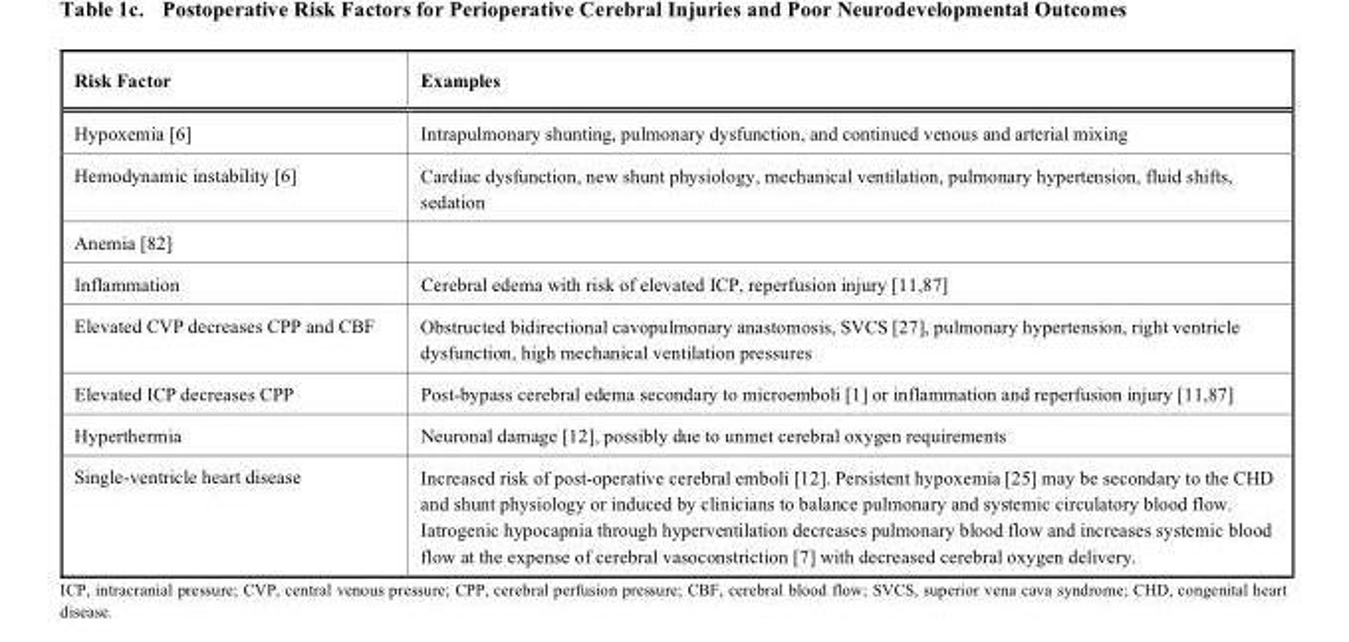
<table><thead><tr><td>Risk Factor</td><td>Examples</td></tr></thead><tbody><tr><td>Hypoxemia [6]</td><td>Intrapulmonary shunting, pulmonary dysfunction, and continued venous and arterial mixing</td></tr><tr><td>Hemodynamic instability [6]</td><td>Cardiac dysfunction, new shunt physiology, mechanical ventilation, pulmonary hypertension, fluid shifts, sedation</td></tr><tr><td colspan="2">Anemia [82]</td></tr><tr><td>Inflammation</td><td>Cerebral edema with risk of elevated ICP, reperfusion injury [11,87]</td></tr><tr><td>Elevated CVP decreases CPP and CBF</td><td>Obstructed bidirectional cavopulmonary anastomosis, SVCS [27], pulmonary hypertension, right ventricle dysfunction, high mechanical ventilation pressures</td></tr><tr><td>Elevated ICP decreases CPP</td><td>Post-bypass cerebral edema secondary to microemboli [1] or inflammation and reperfusion injury [11,87]</td></tr><tr><td>Hyperthermia</td><td>Neuronal damage [12], possibly due to unmet cerebral oxygen requirements</td></tr><tr><td>Single-ventricle heart disease</td><td>Increased risk of post-operative cerebral emboli [12]. Persistent hypoxemia [25] may be secondary to the CHD and shunt physiology or induced by clinicians to balance pulmonary and systemic circulatory blood flow. Iatrogenic hypocapnia through hyperventilation decreases pulmonary blood flow and increases systemic blood flow at the expense of cerebral vasoconstriction [7] with decreased cerebral oxygen delivery.</td></tr></tbody></table>